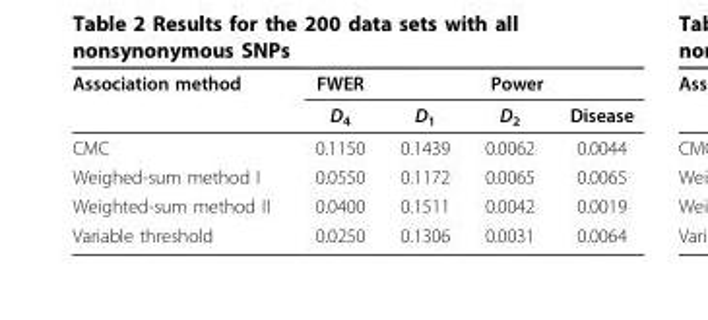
<table><thead><tr><td rowspan="2">Association method</td><td rowspan="2">FWER D<sub>4</sub></td><td colspan="3">Power</td></tr><tr><td>D<sub>1</sub></td><td>D<sub>2</sub></td><td>Disease</td></tr></thead><tbody><tr><td>CMC</td><td>0.1150</td><td>0.1439</td><td>0.0062</td><td>0.0044</td></tr><tr><td>Weighed-sum method I</td><td>0.0550</td><td>0.1172</td><td>0.0065</td><td>0.0065</td></tr><tr><td>Weighted-sum method II</td><td>0.0400</td><td>0.1511</td><td>0.0042</td><td>0.0019</td></tr><tr><td>Variable threshold</td><td>0.0250</td><td>0.1306</td><td>0.0031</td><td>0.0064</td></tr></tbody></table>